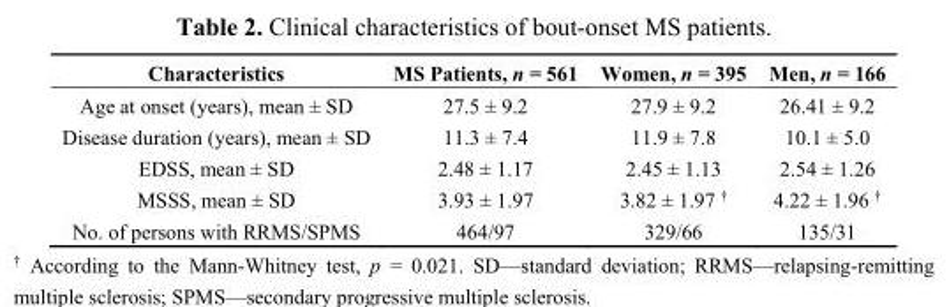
<table><thead><tr><td>Characteristics</td><td>MS Patients, n = 561</td><td>Women, n = 395</td><td>Men, n = 166</td></tr></thead><tbody><tr><td>Age at onset (years), mean ± SD</td><td>27.5 ± 9.2</td><td>27.9 ± 9.2</td><td>26.41 ± 9.2</td></tr><tr><td>Disease duration (years), mean ± SD</td><td>11.3 ± 7.4</td><td>11.9 ± 7.8</td><td>10.1 ± 5.0</td></tr><tr><td>EDSS, mean ± SD</td><td>2.48 ± 1.17</td><td>2.45 ± 1.13</td><td>2.54 ± 1.26</td></tr><tr><td>MSSS, mean ± SD</td><td>3.93 ± 1.97</td><td>3.82 ± 1.97 <sup>†</sup></td><td>4.22 ± 1.96 <sup>†</sup></td></tr><tr><td>No. of persons with RRMS/SPMS</td><td>464/97</td><td>329/66</td><td>135/31</td></tr></tbody></table>